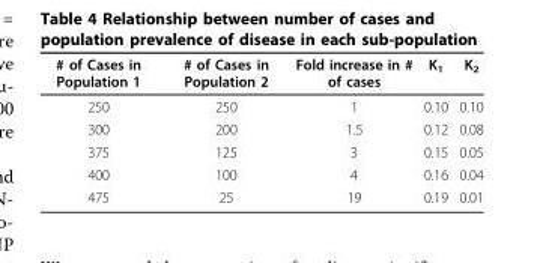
<table><thead><tr><td># of Cases in Population 1</td><td># of Cases in Population 2</td><td>Fold increase in # of cases</td><td>K<sub>1</sub></td><td>K<sub>2</sub></td></tr></thead><tbody><tr><td>250</td><td>250</td><td>1</td><td>0.10</td><td>0.10</td></tr><tr><td>300</td><td>200</td><td>1.5</td><td>0.12</td><td>0.08</td></tr><tr><td>375</td><td>125</td><td>3</td><td>0.15</td><td>0.05</td></tr><tr><td>400</td><td>100</td><td>4</td><td>0.16</td><td>0.04</td></tr><tr><td>475</td><td>25</td><td>19</td><td>0.19</td><td>0.01</td></tr></tbody></table>